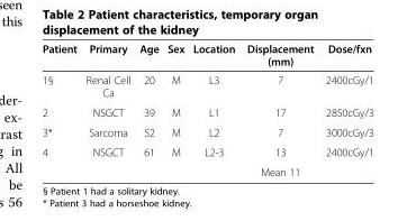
<table><thead><tr><td>Patient</td><td>Primary</td><td>Age</td><td>Sex</td><td>Location</td><td>Displacement (mm)</td><td>Dose/fxn</td></tr></thead><tbody><tr><td>1§</td><td>Renal Cell Ca</td><td>20</td><td>M</td><td>L3</td><td>7</td><td>2400cGy/1</td></tr><tr><td>2</td><td>NSGCT</td><td>39</td><td>M</td><td>L1</td><td>17</td><td>2850cGy/3</td></tr><tr><td>3*</td><td>Sarcoma</td><td>52</td><td>M</td><td>L2</td><td>7</td><td>3000cGy/3</td></tr><tr><td rowspan="2">4</td><td>NSGCT</td><td>61</td><td>M</td><td>L2-3</td><td>13</td><td>2400cGy/1</td></tr><tr><td></td><td></td><td></td><td></td><td>Mean 11</td><td></td></tr></tbody></table>